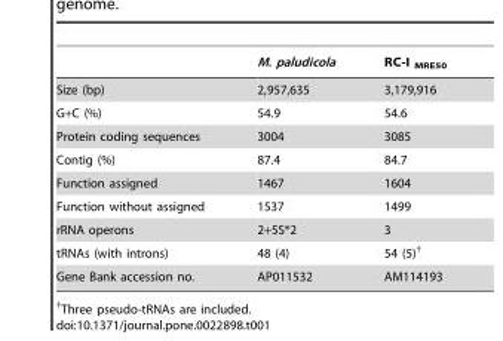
<table><thead><tr><td></td><td>M. paludicola</td><td>RC-I <sub>MRE50</sub></td></tr></thead><tbody><tr><td>Size (bp)</td><td>2,957,635</td><td>3,179,916</td></tr><tr><td>G+C (%)</td><td>54.9</td><td>54.6</td></tr><tr><td>Protein coding sequences</td><td>3004</td><td>3085</td></tr><tr><td>Contig (%)</td><td>87.4</td><td>84.7</td></tr><tr><td>Function assigned</td><td>1467</td><td>1604</td></tr><tr><td>Function without assigned</td><td>1537</td><td>1499</td></tr><tr><td>rRNA operons</td><td>2+5S*2</td><td>3</td></tr><tr><td>tRNAs (with introns)</td><td>48 (4)</td><td>54 (5)†</td></tr><tr><td>Gene Bank accession no.</td><td>AP011532</td><td>AM114193</td></tr></tbody></table>